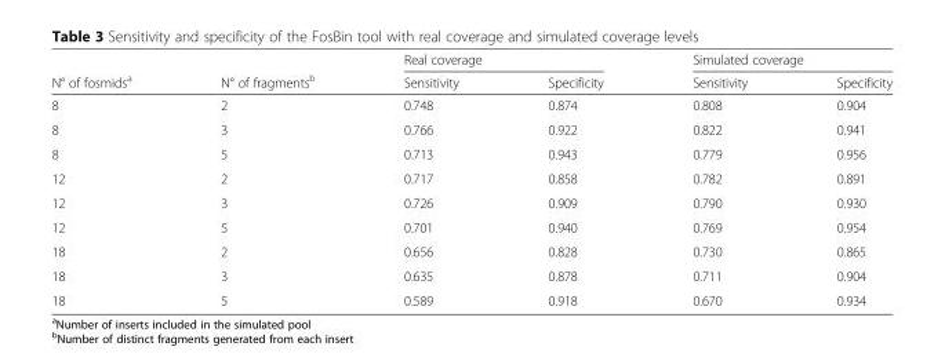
<table><thead><tr><td rowspan="2">N° of fosmids<sup>a</sup></td><td rowspan="2">N° of fragments<sup>b</sup></td><td colspan="2">Real coverage</td><td colspan="2">Simulated coverage</td></tr><tr><td>Sensitivity</td><td>Specificity</td><td>Sensitivity</td><td>Specificity</td></tr></thead><tbody><tr><td>8</td><td>2</td><td>0.748</td><td>0.874</td><td>0.808</td><td>0.904</td></tr><tr><td>8</td><td>3</td><td>0.766</td><td>0.922</td><td>0.822</td><td>0.941</td></tr><tr><td>8</td><td>5</td><td>0.713</td><td>0.943</td><td>0.779</td><td>0.956</td></tr><tr><td>12</td><td>2</td><td>0.717</td><td>0.858</td><td>0.782</td><td>0.891</td></tr><tr><td>12</td><td>3</td><td>0.726</td><td>0.909</td><td>0.790</td><td>0.930</td></tr><tr><td>12</td><td>5</td><td>0.701</td><td>0.940</td><td>0.769</td><td>0.954</td></tr><tr><td>18</td><td>2</td><td>0.656</td><td>0.828</td><td>0.730</td><td>0.865</td></tr><tr><td>18</td><td>3</td><td>0.635</td><td>0.878</td><td>0.711</td><td>0.904</td></tr><tr><td>18</td><td>5</td><td>0.589</td><td>0.918</td><td>0.670</td><td>0.934</td></tr></tbody></table>